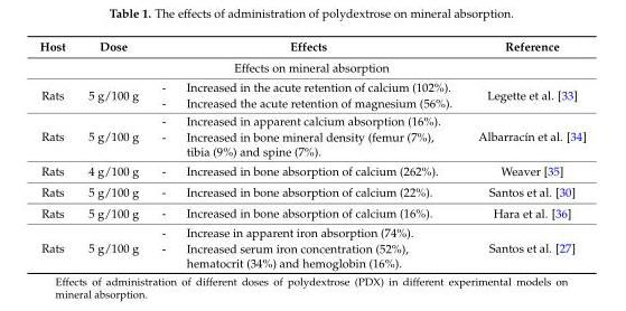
<table><thead><tr><td>Host</td><td>Dose</td><td>Effects</td><td>Reference</td></tr></thead><tbody><tr><td colspan="4">Effects on mineral absorption</td></tr><tr><td>Rats</td><td>5 g/100 g</td><td>- Increased in the acute retention of calcium (102%). - Increased the acute retention of magnesium (56%).</td><td>Legette et al. [33]</td></tr><tr><td>Rats</td><td>5 g/100 g</td><td>- Increased in apparent calcium absorption (16%). - Increased in bone mineral density (femur (7%), tibia (9%) and spine (7%).</td><td>Albarracín et al. [34]</td></tr><tr><td>Rats</td><td>4 g/100 g</td><td>- Increased in bone absorption of calcium (262%).</td><td>Weaver [35]</td></tr><tr><td>Rats</td><td>5 g/100 g</td><td>- Increased in bone absorption of calcium (22%).</td><td>Santos et al. [30]</td></tr><tr><td>Rats</td><td>5 g/100 g</td><td>- Increased in bone absorption of calcium (16%).</td><td>Hara et al. [36]</td></tr><tr><td>Rats</td><td>5 g/100 g</td><td>- Increase in apparent iron absorption (74%). - Increased serum iron concentration (52%), hematocrit (34%) and hemoglobin (16%).</td><td>Santos et al. [27]</td></tr></tbody></table>